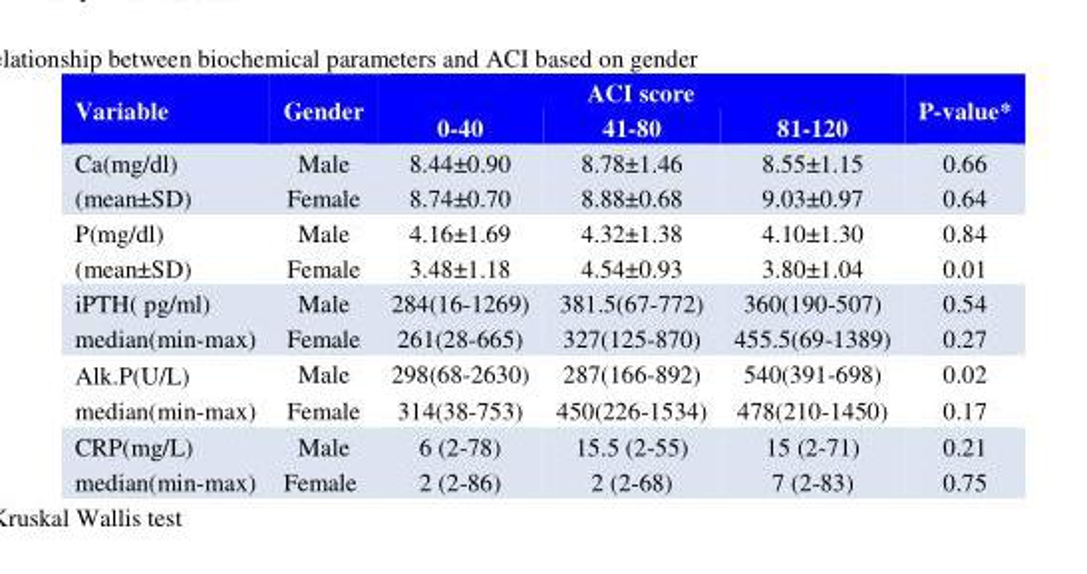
<table><thead><tr><td rowspan="2">Variable</td><td rowspan="2">Gender</td><td colspan="3">ACI score</td><td rowspan="2">P-value*</td></tr><tr><td>0-40</td><td>41-80</td><td>81-120</td></tr></thead><tbody><tr><td rowspan="2">Ca(mg/dl) (mean±SD)</td><td>Male</td><td>8.44±0.90</td><td>8.78±1.46</td><td>8.55±1.15</td><td>0.66</td></tr><tr><td>Female</td><td>8.74±0.70</td><td>8.88±0.68</td><td>9.03±0.97</td><td>0.64</td></tr><tr><td rowspan="2">P(mg/dl) (mean±SD)</td><td>Male</td><td>4.16±1.69</td><td>4.32±1.38</td><td>4.10±1.30</td><td>0.84</td></tr><tr><td>Female</td><td>3.48±1.18</td><td>4.54±0.93</td><td>3.80±1.04</td><td>0.01</td></tr><tr><td rowspan="2">iPTH( pg/ml) median(min-max)</td><td>Male</td><td>284(16-1269)</td><td>381.5(67-772)</td><td>360(190-507)</td><td>0.54</td></tr><tr><td>Female</td><td>261(28-665)</td><td>327(125-870)</td><td>455.5(69-1389)</td><td>0.27</td></tr><tr><td rowspan="2">Alk.P(U/L) median(min-max)</td><td>Male</td><td>298(68-2630)</td><td>287(166-892)</td><td>540(391-698)</td><td>0.02</td></tr><tr><td>Female</td><td>314(38-753)</td><td>450(226-1534)</td><td>478(210-1450)</td><td>0.17</td></tr><tr><td rowspan="2">CRP(mg/L) median(min-max)</td><td>Male</td><td>6 (2-78)</td><td>15.5 (2-55)</td><td>15 (2-71)</td><td>0.21</td></tr><tr><td>Female</td><td>2 (2-86)</td><td>2 (2-68)</td><td>7 (2-83)</td><td>0.75</td></tr></tbody></table>